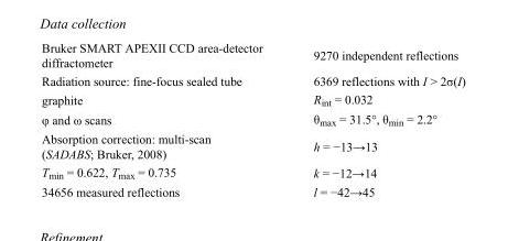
<table><tbody><tr><td>Bruker SMART APEXII CCD area-detector diffractometer</td><td>9270 independent reflections</td></tr><tr><td>Radiation source: fine-focus sealed tube</td><td>6369 reflections with I &gt; 2σ(I)</td></tr><tr><td>graphite</td><td>R<sub>int</sub> = 0.032</td></tr><tr><td>φ and ω scans</td><td>θ<sub>max</sub> = 31.5°, θ<sub>min</sub> = 2.2°</td></tr><tr><td>Absorption correction: multi-scan (SADABS; Bruker, 2008)</td><td>h = −13→13</td></tr><tr><td>T<sub>min</sub> = 0.622, T<sub>max</sub> = 0.735</td><td>k = −12→14</td></tr><tr><td>34656 measured reflections</td><td>l = −42→45</td></tr></tbody></table>